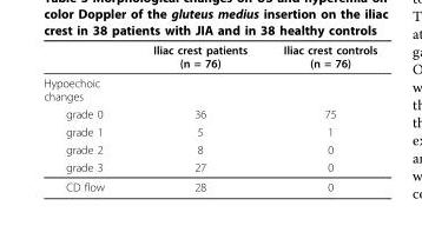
<table><thead><tr><td></td><td>Iliac crest patients (n = 76)</td><td>Iliac crest controls (n = 76)</td></tr></thead><tbody><tr><td colspan="3">Hypoechoic changes</td></tr><tr><td>grade 0</td><td>36</td><td>75</td></tr><tr><td>grade 1</td><td>5</td><td>1</td></tr><tr><td>grade 2</td><td>8</td><td>0</td></tr><tr><td>grade 3</td><td>27</td><td>0</td></tr><tr><td>CD flow</td><td>28</td><td>0</td></tr></tbody></table>